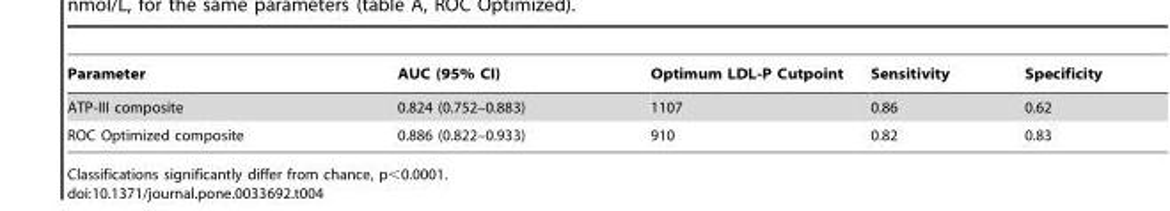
<table><thead><tr><td>Parameter</td><td>AUC (95% CI)</td><td>Optimum LDL-P Cutpoint</td><td>Sensitivity</td><td>Specificity</td></tr></thead><tbody><tr><td>ATP-III composite</td><td>0.824 (0.752–0.883)</td><td>1107</td><td>0.86</td><td>0.62</td></tr><tr><td>ROC Optimized composite</td><td>0.886 (0.822–0.933)</td><td>910</td><td>0.82</td><td>0.83</td></tr></tbody></table>